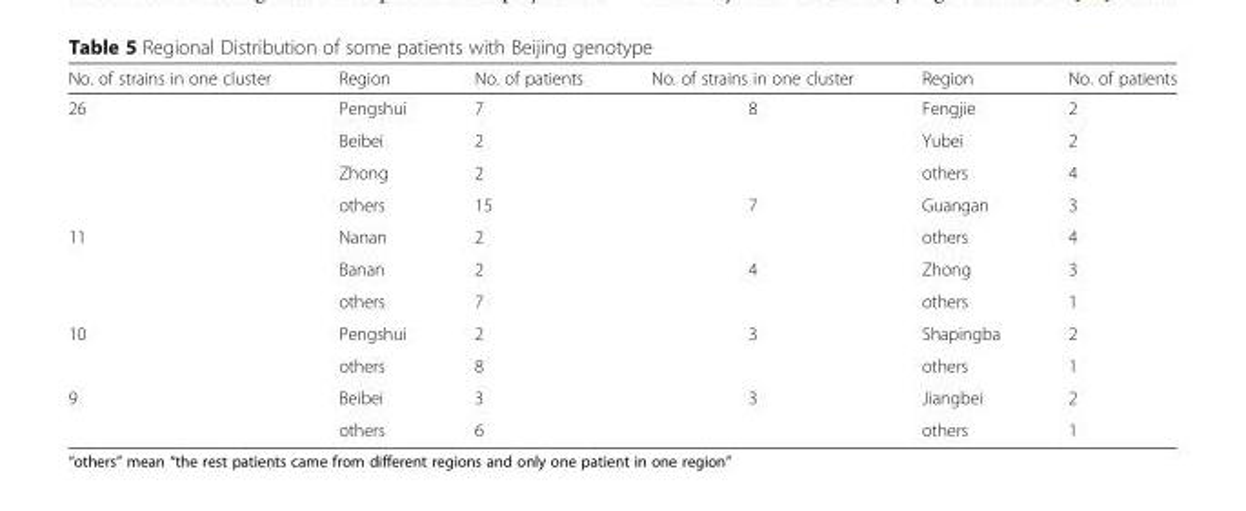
<table><thead><tr><td>No. of strains in one cluster</td><td>Region</td><td>No. of patients</td><td>No. of strains in one cluster</td><td>Region</td><td>No. of patients</td></tr></thead><tbody><tr><td rowspan="4">26</td><td>Pengshui</td><td>7</td><td>8</td><td>Fengjie</td><td>2</td></tr><tr><td>Beibei</td><td>2</td><td></td><td>Yubei</td><td>2</td></tr><tr><td>Zhong</td><td>2</td><td></td><td>others</td><td>4</td></tr><tr><td>others</td><td>15</td><td>7</td><td>Guangan</td><td>3</td></tr><tr><td rowspan="3">11</td><td>Nanan</td><td>2</td><td></td><td>others</td><td>4</td></tr><tr><td>Banan</td><td>2</td><td>4</td><td>Zhong</td><td>3</td></tr><tr><td>others</td><td>7</td><td></td><td>others</td><td>1</td></tr><tr><td rowspan="2">10</td><td>Pengshui</td><td>2</td><td>3</td><td>Shapingba</td><td>2</td></tr><tr><td>others</td><td>8</td><td></td><td>others</td><td>1</td></tr><tr><td rowspan="2">9</td><td>Beibei</td><td>3</td><td>3</td><td>Jiangbei</td><td>2</td></tr><tr><td>others</td><td>6</td><td></td><td>others</td><td>1</td></tr></tbody></table>